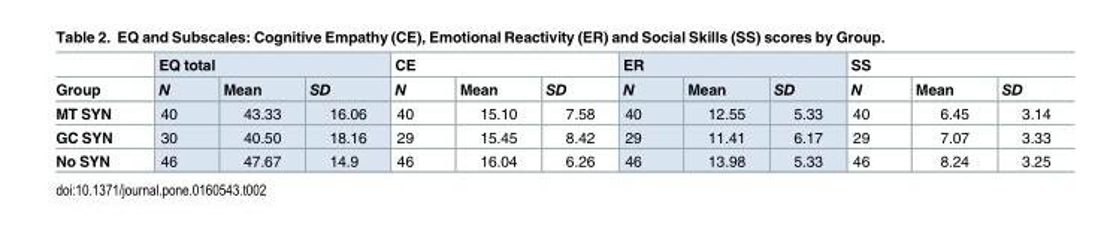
<table><thead><tr><td rowspan="2">Group</td><td colspan="3">EQ total</td><td colspan="3">CE</td><td colspan="3">ER</td><td colspan="3">SS</td></tr><tr><td>N</td><td>Mean</td><td>SD</td><td>N</td><td>Mean</td><td>SD</td><td>N</td><td>Mean</td><td>SD</td><td>N</td><td>Mean</td><td>SD</td></tr></thead><tbody><tr><td>MT SYN</td><td>40</td><td>43.33</td><td>16.06</td><td>40</td><td>15.10</td><td>7.58</td><td>40</td><td>12.55</td><td>5.33</td><td>40</td><td>6.45</td><td>3.14</td></tr><tr><td>GC SYN</td><td>30</td><td>40.50</td><td>18.16</td><td>29</td><td>15.45</td><td>8.42</td><td>29</td><td>11.41</td><td>6.17</td><td>29</td><td>7.07</td><td>3.33</td></tr><tr><td>No SYN</td><td>46</td><td>47.67</td><td>14.9</td><td>46</td><td>16.04</td><td>6.26</td><td>46</td><td>13.98</td><td>5.33</td><td>46</td><td>8.24</td><td>3.25</td></tr></tbody></table>